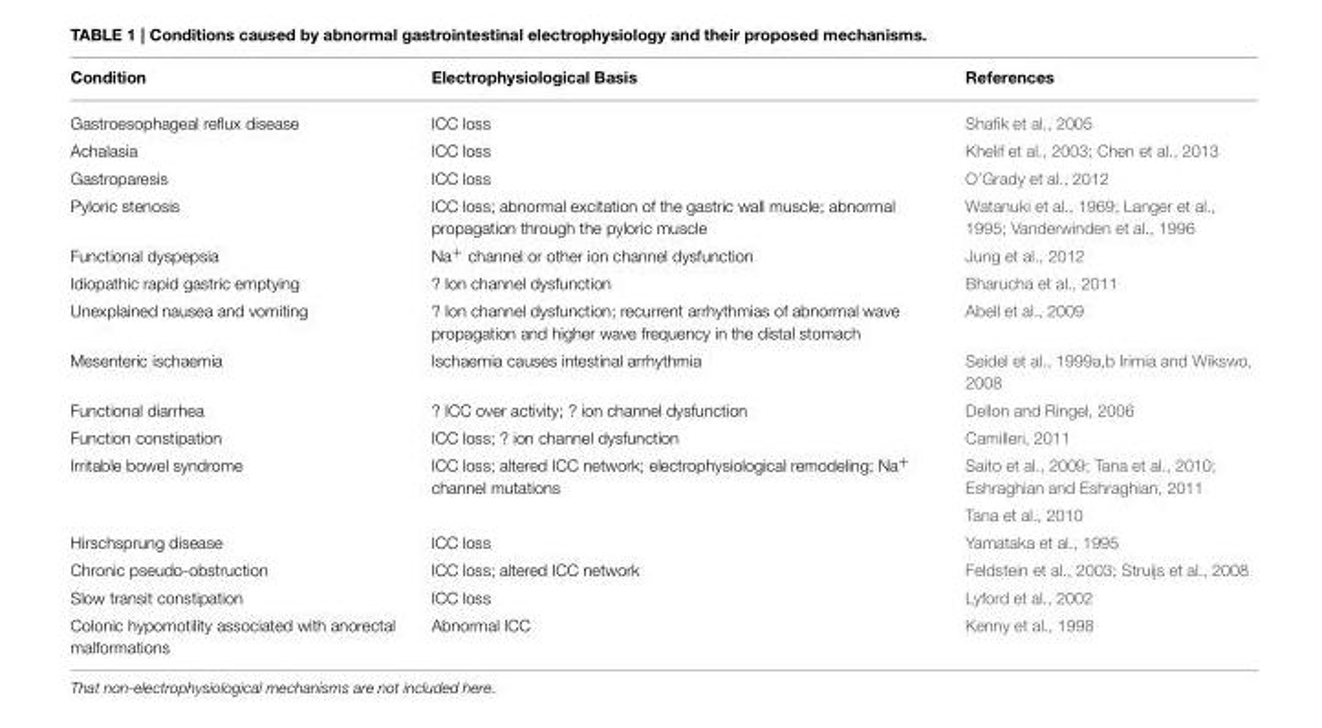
<table><thead><tr><td>Condition</td><td>Electrophysiological Basis</td><td>References</td></tr></thead><tbody><tr><td>Gastroesophageal reflux disease</td><td>ICC loss</td><td>Shafik et al., 2005</td></tr><tr><td>Achalasia</td><td>ICC loss</td><td>Khelif et al., 2003; Chen et al., 2013</td></tr><tr><td>Gastroparesis</td><td>ICC loss</td><td>O’Grady et al., 2012</td></tr><tr><td>Pyloric stenosis</td><td>ICC loss; abnormal excitation of the gastric wall muscle; abnormal propagation through the pyloric muscle</td><td>Watanuki et al., 1969; Langer et al., 1995; Vanderwinden et al., 1996</td></tr><tr><td>Functional dyspepsia</td><td>Na<sup>+</sup> channel or other ion channel dysfunction</td><td>Jung et al., 2012</td></tr><tr><td>Idiopathic rapid gastric emptying</td><td>? Ion channel dysfunction</td><td>Bharucha et al., 2011</td></tr><tr><td>Unexplained nausea and vomiting</td><td>? Ion channel dysfunction; recurrent arrhythmias of abnormal wave propagation and higher wave frequency in the distal stomach</td><td>Abell et al., 2009</td></tr><tr><td>Mesenteric ischaemia</td><td>Ischaemia causes intestinal arrhythmia</td><td>Seidel et al., 1999a,b Irimia and Wikswo, 2008</td></tr><tr><td>Functional diarrhea</td><td>? ICC over activity; ? ion channel dysfunction</td><td>Dellon and Ringel, 2006</td></tr><tr><td>Function constipation</td><td>ICC loss; ? ion channel dysfunction</td><td>Camilleri, 2011</td></tr><tr><td rowspan="2">Irritable bowel syndrome</td><td>ICC loss; altered ICC network; electrophysiological remodeling; Na<sup>+</sup> channel mutations</td><td>Saito et al., 2009; Tana et al., 2010; Eshraghian and Eshraghian, 2011</td></tr><tr><td></td><td>Tana et al., 2010</td></tr><tr><td>Hirschsprung disease</td><td>ICC loss</td><td>Yamataka et al., 1995</td></tr><tr><td>Chronic pseudo-obstruction</td><td>ICC loss; altered ICC network</td><td>Feldstein et al., 2003; Struijs et al., 2008</td></tr><tr><td>Slow transit constipation</td><td>ICC loss</td><td>Lyford et al., 2002</td></tr><tr><td>Colonic hypomotility associated with anorectal malformations</td><td>Abnormal ICC</td><td>Kenny et al., 1998</td></tr></tbody></table>